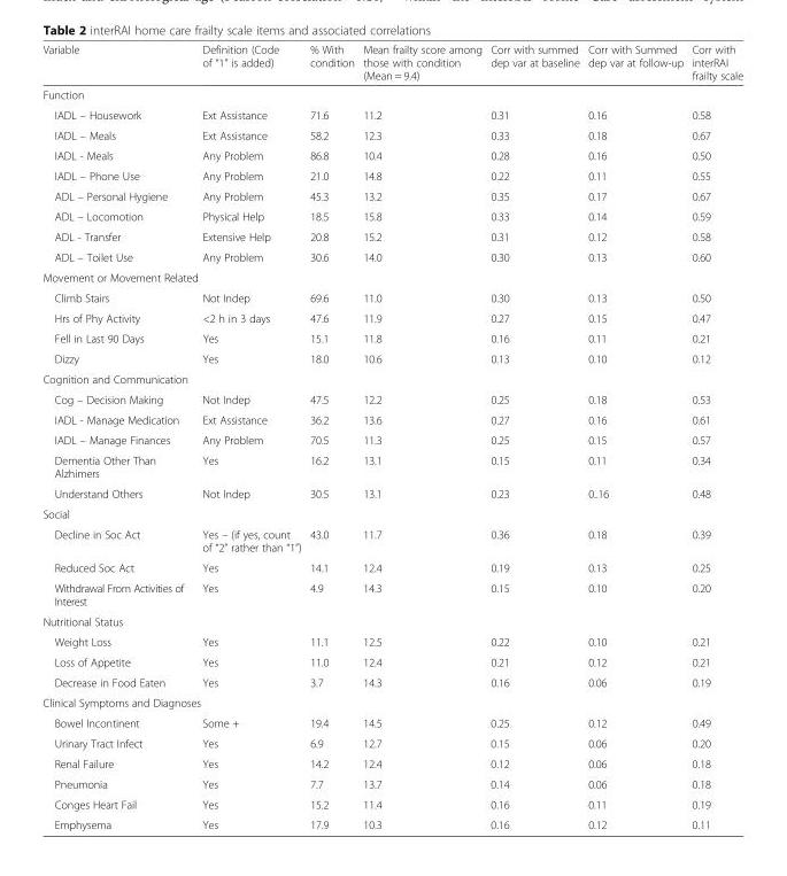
<table><thead><tr><td>Variable</td><td>Definition (Code of “1” is added)</td><td>% With condition</td><td>Mean frailty score among those with condition (Mean = 9.4)</td><td>Corr with summed dep var at baseline</td><td>Corr with Summed dep var at follow-up</td><td>Corr with interRAI frailty scale</td></tr></thead><tbody><tr><td colspan="7">Function</td></tr><tr><td>IADL – Housework</td><td>Ext Assistance</td><td>71.6</td><td>11.2</td><td>0.31</td><td>0.16</td><td>0.58</td></tr><tr><td>IADL – Meals</td><td>Ext Assistance</td><td>58.2</td><td>12.3</td><td>0.33</td><td>0.18</td><td>0.67</td></tr><tr><td>IADL - Meals</td><td>Any Problem</td><td>86.8</td><td>10.4</td><td>0.28</td><td>0.16</td><td>0.50</td></tr><tr><td>IADL – Phone Use</td><td>Any Problem</td><td>21.0</td><td>14.8</td><td>0.22</td><td>0.11</td><td>0.55</td></tr><tr><td>ADL – Personal Hygiene</td><td>Any Problem</td><td>45.3</td><td>13.2</td><td>0.35</td><td>0.17</td><td>0.67</td></tr><tr><td>ADL – Locomotion</td><td>Physical Help</td><td>18.5</td><td>15.8</td><td>0.33</td><td>0.14</td><td>0.59</td></tr><tr><td>ADL - Transfer</td><td>Extensive Help</td><td>20.8</td><td>15.2</td><td>0.31</td><td>0.12</td><td>0.58</td></tr><tr><td>ADL – Toilet Use</td><td>Any Problem</td><td>30.6</td><td>14.0</td><td>0.30</td><td>0.13</td><td>0.60</td></tr><tr><td colspan="7">Movement or Movement Related</td></tr><tr><td>Climb Stairs</td><td>Not Indep</td><td>69.6</td><td>11.0</td><td>0.30</td><td>0.13</td><td>0.50</td></tr><tr><td>Hrs of Phy Activity</td><td>&lt;2 h in 3 days</td><td>47.6</td><td>11.9</td><td>0.27</td><td>0.15</td><td>0.47</td></tr><tr><td>Fell in Last 90 Days</td><td>Yes</td><td>15.1</td><td>11.8</td><td>0.16</td><td>0.11</td><td>0.21</td></tr><tr><td>Dizzy</td><td>Yes</td><td>18.0</td><td>10.6</td><td>0.13</td><td>0.10</td><td>0.12</td></tr><tr><td colspan="7">Cognition and Communication</td></tr><tr><td>Cog – Decision Making</td><td>Not Indep</td><td>47.5</td><td>12.2</td><td>0.25</td><td>0.18</td><td>0.53</td></tr><tr><td>IADL - Manage Medication</td><td>Ext Assistance</td><td>36.2</td><td>13.6</td><td>0.27</td><td>0.16</td><td>0.61</td></tr><tr><td>IADL – Manage Finances</td><td>Any Problem</td><td>70.5</td><td>11.3</td><td>0.25</td><td>0.15</td><td>0.57</td></tr><tr><td>Dementia Other Than Alzhimers</td><td>Yes</td><td>16.2</td><td>13.1</td><td>0.15</td><td>0.11</td><td>0.34</td></tr><tr><td>Understand Others</td><td>Not Indep</td><td>30.5</td><td>13.1</td><td>0.23</td><td>0..16</td><td>0.48</td></tr><tr><td colspan="7">Social</td></tr><tr><td>Decline in Soc Act</td><td>Yes – (if yes, count of “2” rather than “1”)</td><td>43.0</td><td>11.7</td><td>0.36</td><td>0.18</td><td>0.39</td></tr><tr><td>Reduced Soc Act</td><td>Yes</td><td>14.1</td><td>12.4</td><td>0.19</td><td>0.13</td><td>0.25</td></tr><tr><td>Withdrawal From Activities of Interest</td><td>Yes</td><td>4.9</td><td>14.3</td><td>0.15</td><td>0.10</td><td>0.20</td></tr><tr><td colspan="7">Nutritional Status</td></tr><tr><td>Weight Loss</td><td>Yes</td><td>11.1</td><td>12.5</td><td>0.22</td><td>0.10</td><td>0.21</td></tr><tr><td>Loss of Appetite</td><td>Yes</td><td>11.0</td><td>12.4</td><td>0.21</td><td>0.12</td><td>0.21</td></tr><tr><td>Decrease in Food Eaten</td><td>Yes</td><td>3.7</td><td>14.3</td><td>0.16</td><td>0.06</td><td>0.19</td></tr><tr><td colspan="7">Clinical Symptoms and Diagnoses</td></tr><tr><td>Bowel Incontinent</td><td>Some +</td><td>19.4</td><td>14.5</td><td>0.25</td><td>0.12</td><td>0.49</td></tr><tr><td>Urinary Tract Infect</td><td>Yes</td><td>6.9</td><td>12.7</td><td>0.15</td><td>0.06</td><td>0.20</td></tr><tr><td>Renal Failure</td><td>Yes</td><td>14.2</td><td>12.4</td><td>0.12</td><td>0.06</td><td>0.18</td></tr><tr><td>Pneumonia</td><td>Yes</td><td>7.7</td><td>13.7</td><td>0.14</td><td>0.06</td><td>0.18</td></tr><tr><td>Conges Heart Fail</td><td>Yes</td><td>15.2</td><td>11.4</td><td>0.16</td><td>0.11</td><td>0.19</td></tr><tr><td>Emphysema</td><td>Yes</td><td>17.9</td><td>10.3</td><td>0.16</td><td>0.12</td><td>0.11</td></tr></tbody></table>